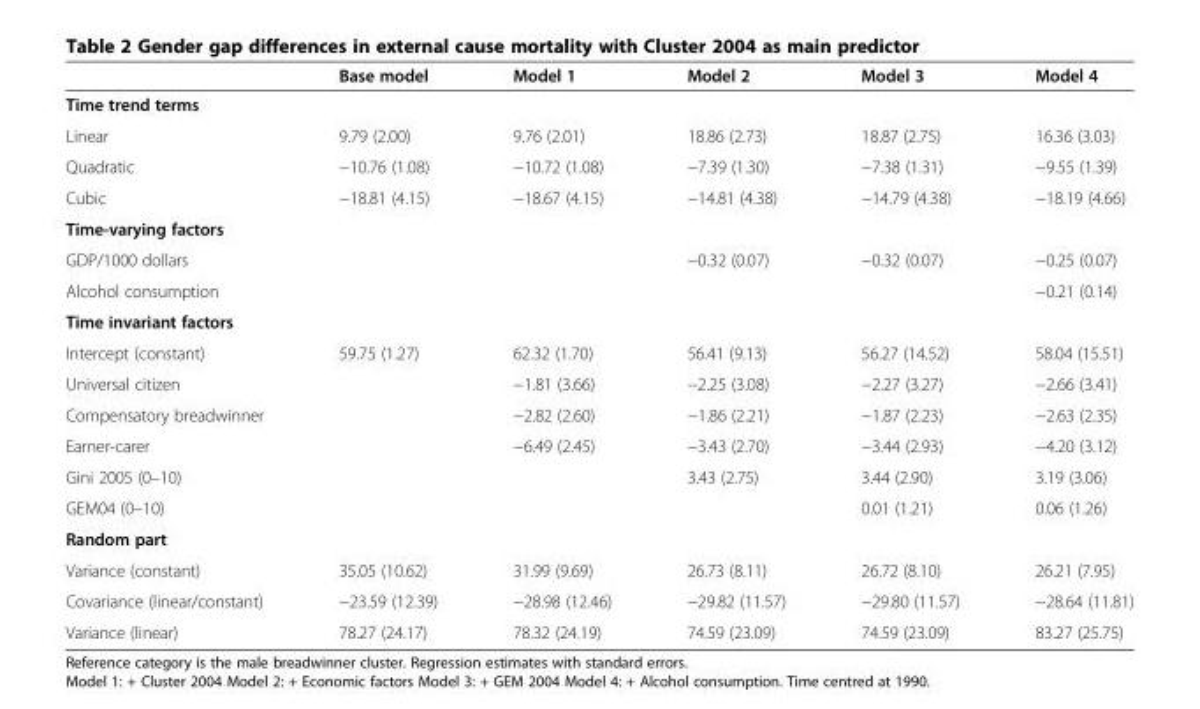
<table><thead><tr><td></td><td>Base model</td><td>Model 1</td><td>Model 2</td><td>Model 3</td><td>Model 4</td></tr></thead><tbody><tr><td colspan="6">Time trend terms</td></tr><tr><td>Linear</td><td>9.79 (2.00)</td><td>9.76 (2.01)</td><td>18.86 (2.73)</td><td>18.87 (2.75)</td><td>16.36 (3.03)</td></tr><tr><td>Quadratic</td><td>−10.76 (1.08)</td><td>−10.72 (1.08)</td><td>−7.39 (1.30)</td><td>−7.38 (1.31)</td><td>−9.55 (1.39)</td></tr><tr><td>Cubic</td><td>−18.81 (4.15)</td><td>−18.67 (4.15)</td><td>−14.81 (4.38)</td><td>−14.79 (4.38)</td><td>−18.19 (4.66)</td></tr><tr><td colspan="6">Time-varying factors</td></tr><tr><td>GDP/1000 dollars</td><td></td><td></td><td>−0.32 (0.07)</td><td>−0.32 (0.07)</td><td>−0.25 (0.07)</td></tr><tr><td>Alcohol consumption</td><td></td><td></td><td></td><td></td><td>−0.21 (0.14)</td></tr><tr><td colspan="6">Time invariant factors</td></tr><tr><td>Intercept (constant)</td><td>59.75 (1.27)</td><td>62.32 (1.70)</td><td>56.41 (9.13)</td><td>56.27 (14.52)</td><td>58.04 (15.51)</td></tr><tr><td>Universal citizen</td><td></td><td>−1.81 (3.66)</td><td>−2.25 (3.08)</td><td>−2.27 (3.27)</td><td>−2.66 (3.41)</td></tr><tr><td>Compensatory breadwinner</td><td></td><td>−2.82 (2.60)</td><td>−1.86 (2.21)</td><td>−1.87 (2.23)</td><td>−2.63 (2.35)</td></tr><tr><td>Earner-carer</td><td></td><td>−6.49 (2.45)</td><td>−3.43 (2.70)</td><td>−3.44 (2.93)</td><td>−4.20 (3.12)</td></tr><tr><td>Gini 2005 (0–10)</td><td></td><td></td><td>3.43 (2.75)</td><td>3.44 (2.90)</td><td>3.19 (3.06)</td></tr><tr><td>GEM04 (0–10)</td><td></td><td></td><td></td><td>0.01 (1.21)</td><td>0.06 (1.26)</td></tr><tr><td colspan="6">Random part</td></tr><tr><td>Variance (constant)</td><td>35.05 (10.62)</td><td>31.99 (9.69)</td><td>26.73 (8.11)</td><td>26.72 (8.10)</td><td>26.21 (7.95)</td></tr><tr><td>Covariance (linear/constant)</td><td>−23.59 (12.39)</td><td>−28.98 (12.46)</td><td>−29.82 (11.57)</td><td>−29.80 (11.57)</td><td>−28.64 (11.81)</td></tr><tr><td>Variance (linear)</td><td>78.27 (24.17)</td><td>78.32 (24.19)</td><td>74.59 (23.09)</td><td>74.59 (23.09)</td><td>83.27 (25.75)</td></tr></tbody></table>